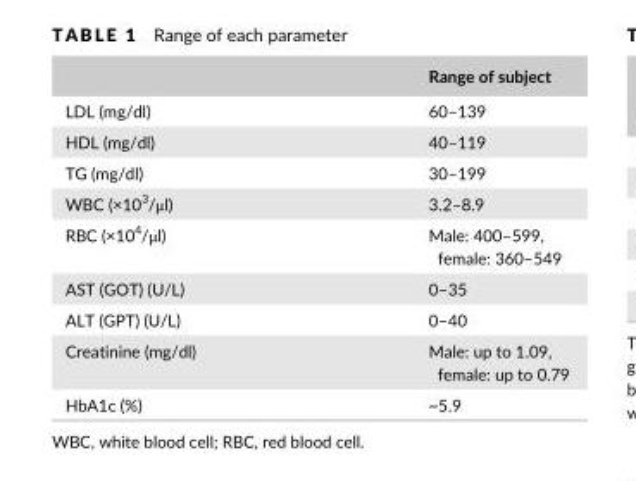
<table><thead><tr><td></td><td>Range of subject</td></tr></thead><tbody><tr><td>LDL (mg/dl)</td><td>60–139</td></tr><tr><td>HDL (mg/dl)</td><td>40–119</td></tr><tr><td>TG (mg/dl)</td><td>30–199</td></tr><tr><td>WBC (×10<sup>3</sup>/μl)</td><td>3.2–8.9</td></tr><tr><td>RBC (×10<sup>4</sup>/μl)</td><td>Male: 400–599, female: 360–549</td></tr><tr><td>AST (GOT) (U/L)</td><td>0–35</td></tr><tr><td>ALT (GPT) (U/L)</td><td>0–40</td></tr><tr><td>Creatinine (mg/dl)</td><td>Male: up to 1.09, female: up to 0.79</td></tr><tr><td>HbA1c (%)</td><td>~5.9</td></tr></tbody></table>